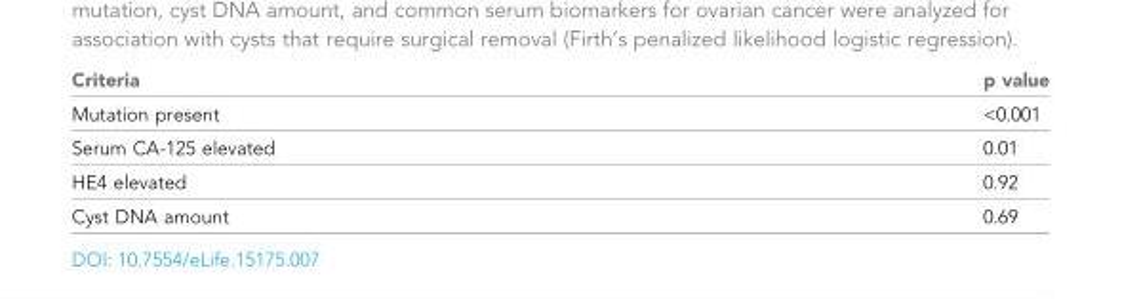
<table><thead><tr><td>Criteria</td><td>p value</td></tr></thead><tbody><tr><td>Mutation present</td><td>&lt;0.001</td></tr><tr><td>Serum CA-125 elevated</td><td>0.01</td></tr><tr><td>HE4 elevated</td><td>0.92</td></tr><tr><td>Cyst DNA amount</td><td>0.69</td></tr></tbody></table>